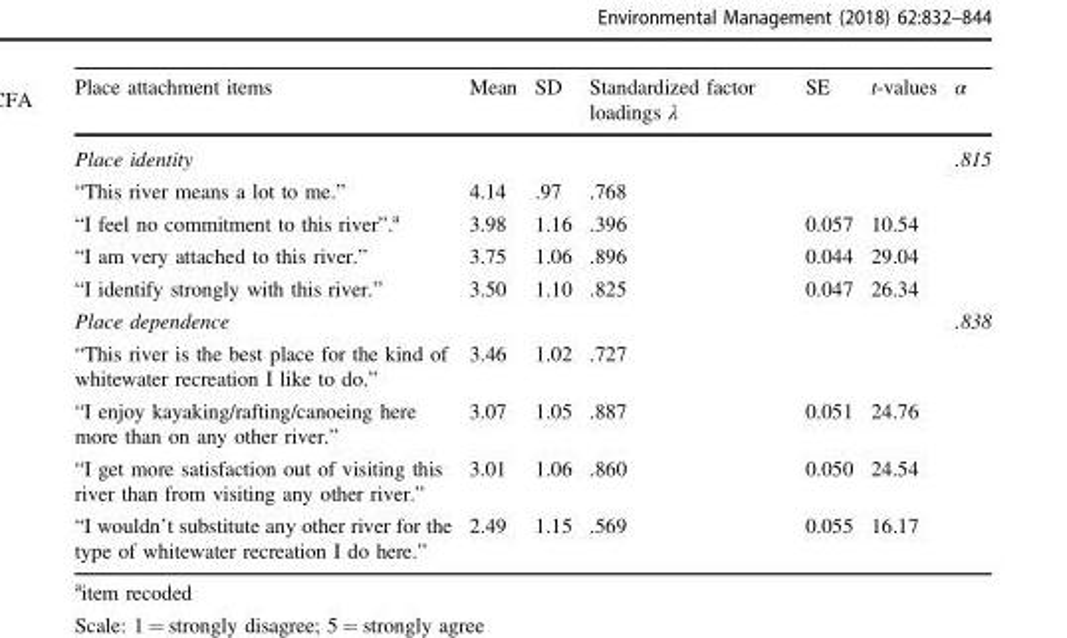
<table><thead><tr><td>Place attachment items</td><td>Mean</td><td>SD</td><td>Standardized factor loadings λ</td><td>SE</td><td>t-values</td><td>α</td></tr></thead><tbody><tr><td>Place identity</td><td></td><td></td><td></td><td></td><td></td><td>.815</td></tr><tr><td>“This river means a lot to me.”</td><td>4.14</td><td>.97</td><td>.768</td><td></td><td></td><td></td></tr><tr><td>“I feel no commitment to this river”.<sup>a</sup></td><td>3.98</td><td>1.16</td><td>.396</td><td>0.057</td><td>10.54</td><td></td></tr><tr><td>“I am very attached to this river.”</td><td>3.75</td><td>1.06</td><td>.896</td><td>0.044</td><td>29.04</td><td></td></tr><tr><td>“I identify strongly with this river.”</td><td>3.50</td><td>1.10</td><td>.825</td><td>0.047</td><td>26.34</td><td></td></tr><tr><td>Place dependence</td><td></td><td></td><td></td><td></td><td></td><td>.838</td></tr><tr><td>“This river is the best place for the kind of whitewater recreation I like to do.”</td><td>3.46</td><td>1.02</td><td>.727</td><td></td><td></td><td></td></tr><tr><td>“I enjoy kayaking/rafting/canoeing here more than on any other river.”</td><td>3.07</td><td>1.05</td><td>.887</td><td>0.051</td><td>24.76</td><td></td></tr><tr><td>“I get more satisfaction out of visiting this river than from visiting any other river.”</td><td>3.01</td><td>1.06</td><td>.860</td><td>0.050</td><td>24.54</td><td></td></tr><tr><td>“I wouldn’t substitute any other river for the type of whitewater recreation I do here.”</td><td>2.49</td><td>1.15</td><td>.569</td><td>0.055</td><td>16.17</td><td></td></tr></tbody></table>